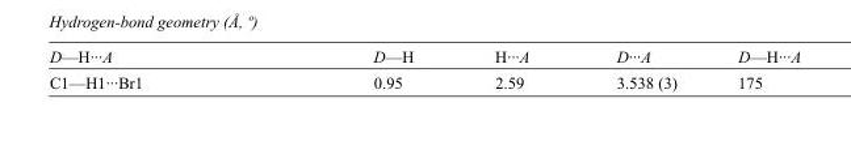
<table><tbody><tr><td>D—H···A</td><td>D—H</td><td>H···A</td><td>D···A</td><td>D—H···A</td></tr><tr><td>C1—H1···Br1</td><td>0.95</td><td>2.59</td><td>3.538 (3)</td><td>175</td></tr></tbody></table>